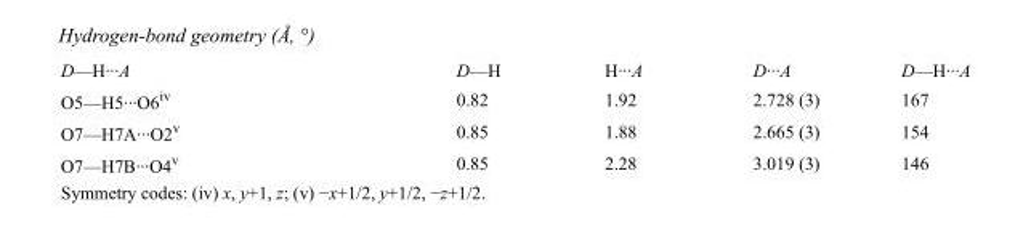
<table><tbody><tr><td>D—H···A</td><td>D—H</td><td>H···A</td><td>D···A</td><td>D—H···A</td></tr><tr><td>O5—H5···O6<sup>iv</sup></td><td>0.82</td><td>1.92</td><td>2.728 (3)</td><td>167</td></tr><tr><td>O7—H7A···O2<sup>v</sup></td><td>0.85</td><td>1.88</td><td>2.665 (3)</td><td>154</td></tr><tr><td>O7—H7B···O4<sup>v</sup></td><td>0.85</td><td>2.28</td><td>3.019 (3)</td><td>146</td></tr></tbody></table>